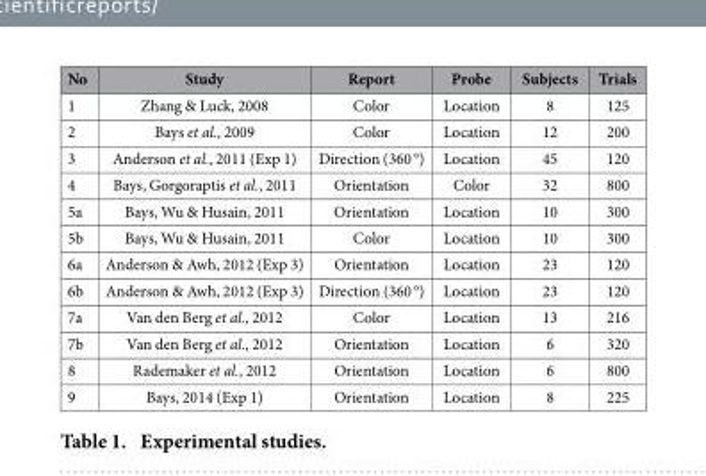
<table><thead><tr><td>No</td><td>Study</td><td>Report</td><td>Probe</td><td>Subjects</td><td>Trials</td></tr></thead><tbody><tr><td>1</td><td>Zhang &amp; Luck, 2008</td><td>Color</td><td>Location</td><td>8</td><td>125</td></tr><tr><td>2</td><td>Bays et al., 2009</td><td>Color</td><td>Location</td><td>12</td><td>200</td></tr><tr><td>3</td><td>Anderson et al., 2011 (Exp 1)</td><td>Direction (360 °)</td><td>Location</td><td>45</td><td>120</td></tr><tr><td>4</td><td>Bays, Gorgoraptis et al., 2011</td><td>Orientation</td><td>Color</td><td>32</td><td>800</td></tr><tr><td>5a</td><td>Bays, Wu &amp; Husain, 2011</td><td>Orientation</td><td>Location</td><td>10</td><td>300</td></tr><tr><td>5b</td><td>Bays, Wu &amp; Husain, 2011</td><td>Color</td><td>Location</td><td>10</td><td>300</td></tr><tr><td>6a</td><td>Anderson &amp; Awh, 2012 (Exp 3)</td><td>Orientation</td><td>Location</td><td>23</td><td>120</td></tr><tr><td>6b</td><td>Anderson &amp; Awh, 2012 (Exp 3)</td><td>Direction (360 °)</td><td>Location</td><td>23</td><td>120</td></tr><tr><td>7a</td><td>Van den Berg et al., 2012</td><td>Color</td><td>Location</td><td>13</td><td>216</td></tr><tr><td>7b</td><td>Van den Berg et al., 2012</td><td>Orientation</td><td>Location</td><td>6</td><td>320</td></tr><tr><td>8</td><td>Rademaker et al., 2012</td><td>Orientation</td><td>Location</td><td>6</td><td>800</td></tr><tr><td>9</td><td>Bays, 2014 (Exp 1)</td><td>Orientation</td><td>Location</td><td>8</td><td>225</td></tr></tbody></table>